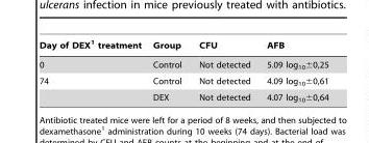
<table><thead><tr><td>Day of DEX<sup>1</sup> treatment</td><td>Group</td><td>CFU</td><td>AFB</td></tr></thead><tbody><tr><td>0</td><td>Control</td><td>Not detected</td><td>5.09 log<sub>10</sub>±0,25</td></tr><tr><td rowspan="2">74</td><td>Control</td><td>Not detected</td><td>4.09 log<sub>10</sub>±0,61</td></tr><tr><td>DEX</td><td>Not detected</td><td>4.07 log<sub>10</sub>±0,64</td></tr></tbody></table>